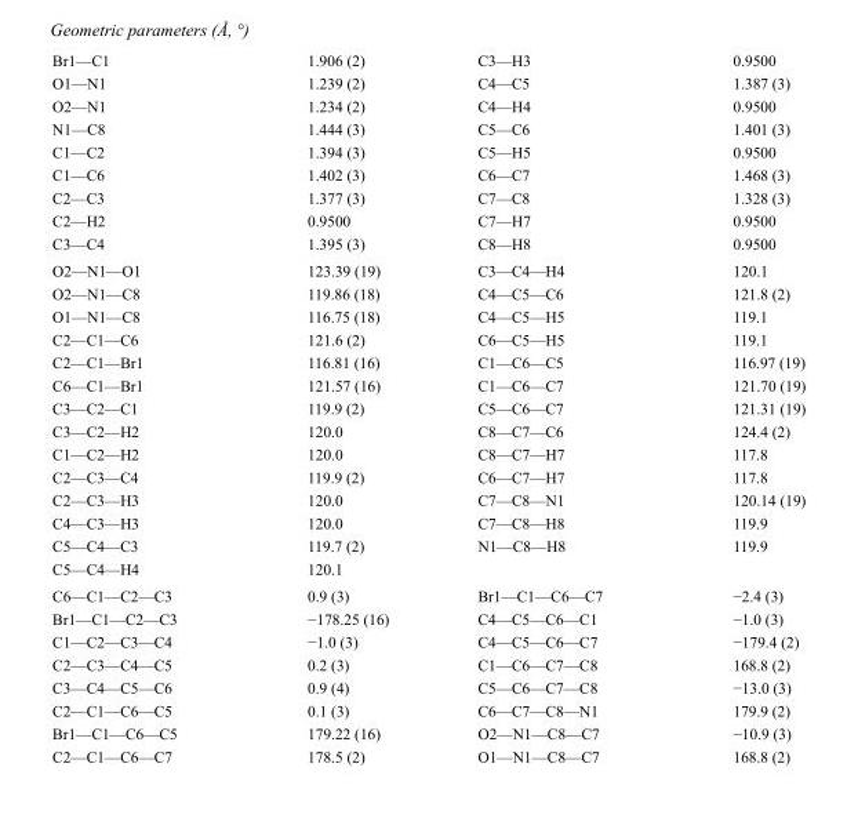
<table><tbody><tr><td>Br1—C1</td><td>1.906 (2)</td><td>C3—H3</td><td>0.9500</td></tr><tr><td>O1—N1</td><td>1.239 (2)</td><td>C4—C5</td><td>1.387 (3)</td></tr><tr><td>O2—N1</td><td>1.234 (2)</td><td>C4—H4</td><td>0.9500</td></tr><tr><td>N1—C8</td><td>1.444 (3)</td><td>C5—C6</td><td>1.401 (3)</td></tr><tr><td>C1—C2</td><td>1.394 (3)</td><td>C5—H5</td><td>0.9500</td></tr><tr><td>C1—C6</td><td>1.402 (3)</td><td>C6—C7</td><td>1.468 (3)</td></tr><tr><td>C2—C3</td><td>1.377 (3)</td><td>C7—C8</td><td>1.328 (3)</td></tr><tr><td>C2—H2</td><td>0.9500</td><td>C7—H7</td><td>0.9500</td></tr><tr><td>C3—C4</td><td>1.395 (3)</td><td>C8—H8</td><td>0.9500</td></tr><tr><td>O2—N1—O1</td><td>123.39 (19)</td><td>C3—C4—H4</td><td>120.1</td></tr><tr><td>O2—N1—C8</td><td>119.86 (18)</td><td>C4—C5—C6</td><td>121.8 (2)</td></tr><tr><td>O1—N1—C8</td><td>116.75 (18)</td><td>C4—C5—H5</td><td>119.1</td></tr><tr><td>C2—C1—C6</td><td>121.6 (2)</td><td>C6—C5—H5</td><td>119.1</td></tr><tr><td>C2—C1—Br1</td><td>116.81 (16)</td><td>C1—C6—C5</td><td>116.97 (19)</td></tr><tr><td>C6—C1—Br1</td><td>121.57 (16)</td><td>C1—C6—C7</td><td>121.70 (19)</td></tr><tr><td>C3—C2—C1</td><td>119.9 (2)</td><td>C5—C6—C7</td><td>121.31 (19)</td></tr><tr><td>C3—C2—H2</td><td>120.0</td><td>C8—C7—C6</td><td>124.4 (2)</td></tr><tr><td>C1—C2—H2</td><td>120.0</td><td>C8—C7—H7</td><td>117.8</td></tr><tr><td>C2—C3—C4</td><td>119.9 (2)</td><td>C6—C7—H7</td><td>117.8</td></tr><tr><td>C2—C3—H3</td><td>120.0</td><td>C7—C8—N1</td><td>120.14 (19)</td></tr><tr><td>C4—C3—H3</td><td>120.0</td><td>C7—C8—H8</td><td>119.9</td></tr><tr><td>C5—C4—C3</td><td>119.7 (2)</td><td>N1—C8—H8</td><td>119.9</td></tr><tr><td>C5—C4—H4</td><td>120.1</td><td></td><td></td></tr><tr><td>C6—C1—C2—C3</td><td>0.9 (3)</td><td>Br1—C1—C6—C7</td><td>−2.4 (3)</td></tr><tr><td>Br1—C1—C2—C3</td><td>−178.25 (16)</td><td>C4—C5—C6—C1</td><td>−1.0 (3)</td></tr><tr><td>C1—C2—C3—C4</td><td>−1.0 (3)</td><td>C4—C5—C6—C7</td><td>−179.4 (2)</td></tr><tr><td>C2—C3—C4—C5</td><td>0.2 (3)</td><td>C1—C6—C7—C8</td><td>168.8 (2)</td></tr><tr><td>C3—C4—C5—C6</td><td>0.9 (4)</td><td>C5—C6—C7—C8</td><td>−13.0 (3)</td></tr><tr><td>C2—C1—C6—C5</td><td>0.1 (3)</td><td>C6—C7—C8—N1</td><td>179.9 (2)</td></tr><tr><td>Br1—C1—C6—C5</td><td>179.22 (16)</td><td>O2—N1—C8—C7</td><td>−10.9 (3)</td></tr><tr><td>C2—C1—C6—C7</td><td>178.5 (2)</td><td>O1—N1—C8—C7</td><td>168.8 (2)</td></tr></tbody></table>